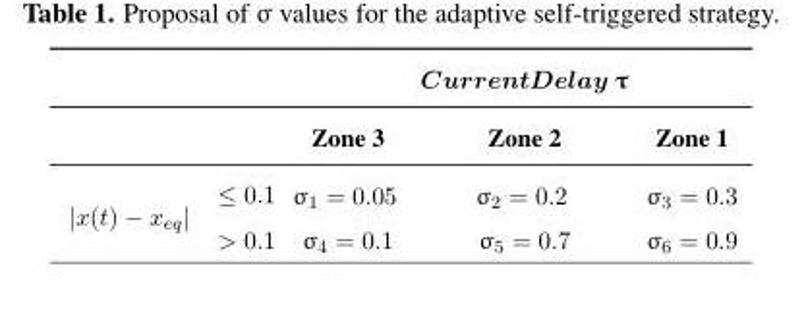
<table><thead><tr><td rowspan="2"></td><td rowspan="2"></td><td colspan="3">CurrentDelay τ</td></tr><tr><td>Zone 3</td><td>Zone 2</td><td>Zone 1</td></tr></thead><tbody><tr><td rowspan="2">|x(t) − x<sub>eq</sub>|</td><td>≤ 0.1</td><td>σ<sub>1</sub> = 0.05</td><td>σ<sub>2</sub> = 0.2</td><td>σ<sub>3</sub> = 0.3</td></tr><tr><td>&gt; 0.1</td><td>σ<sub>4</sub> = 0.1</td><td>σ<sub>5</sub> = 0.7</td><td>σ<sub>6</sub> = 0.9</td></tr></tbody></table>